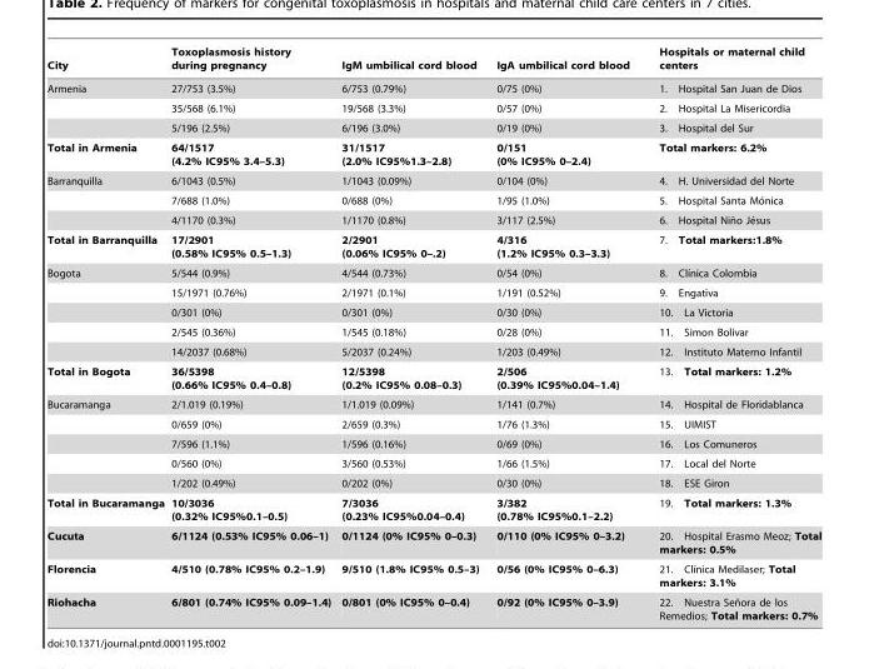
<table><thead><tr><td>City</td><td>Toxoplasmosis history during pregnancy</td><td>IgM umbilical cord blood</td><td>IgA umbilical cord blood</td><td>Hospitals or maternal child centers</td></tr></thead><tbody><tr><td rowspan="3">Armenia</td><td>27/753 (3.5%)</td><td>6/753 (0.79%)</td><td>0/75 (0%)</td><td>1. Hospital San Juan de Dios</td></tr><tr><td>35/568 (6.1%)</td><td>19/568 (3.3%)</td><td>0/57 (0%)</td><td>2. Hospital La Misericordia</td></tr><tr><td>5/196 (2.5%)</td><td>6/196 (3.0%)</td><td>0/19 (0%)</td><td>3. Hospital del Sur</td></tr><tr><td>Total in Armenia</td><td>64/1517 (4.2% IC95% 3.4–5.3)</td><td>31/1517 (2.0% IC95%1.3–2.8)</td><td>0/151 (0% IC95% 0–2.4)</td><td>Total markers: 6.2%</td></tr><tr><td rowspan="3">Barranquilla</td><td>6/1043 (0.5%)</td><td>1/1043 (0.09%)</td><td>0/104 (0%)</td><td>4. H. Universidad del Norte</td></tr><tr><td>7/688 (1.0%)</td><td>0/688 (0%)</td><td>1/95 (1.0%)</td><td>5. Hospital Santa Mo´nica</td></tr><tr><td>4/1170 (0.3%)</td><td>1/1170 (0.8%)</td><td>3/117 (2.5%)</td><td>6. Hospital Nin˜o Je´sus</td></tr><tr><td>Total in Barranquilla</td><td>17/2901 (0.58% IC95% 0.5–1.3)</td><td>2/2901 (0.06% IC95% 0–.2)</td><td>4/316 (1.2% IC95% 0.3–3.3)</td><td>7. Total markers:1.8%</td></tr><tr><td rowspan="5">Bogota</td><td>5/544 (0.9%)</td><td>4/544 (0.73%)</td><td>0/54 (0%)</td><td>8. Clı´nica Colombia</td></tr><tr><td>15/1971 (0.76%)</td><td>2/1971 (0.1%)</td><td>1/191 (0.52%)</td><td>9. Engativa</td></tr><tr><td>0/301 (0%)</td><td>0/301 (0%)</td><td>0/30 (0%)</td><td>10. La Victoria</td></tr><tr><td>2/545 (0.36%)</td><td>1/545 (0.18%)</td><td>0/28 (0%)</td><td>11. Simon Bolivar</td></tr><tr><td>14/2037 (0.68%)</td><td>5/2037 (0.24%)</td><td>1/203 (0.49%)</td><td>12. Instituto Materno Infantil</td></tr><tr><td>Total in Bogota</td><td>36/5398 (0.66% IC95% 0.4–0.8)</td><td>12/5398 (0.2% IC95% 0.08–0.3)</td><td>2/506 (0.39% IC95%0.04–1.4)</td><td>13. Total markers: 1.2%</td></tr><tr><td rowspan="5">Bucaramanga</td><td>2/1.019 (0.19%)</td><td>1/1.019 (0.09%)</td><td>1/141 (0.7%)</td><td>14. Hospital de Floridablanca</td></tr><tr><td>0/659 (0%)</td><td>2/659 (0.3%)</td><td>1/76 (1.3%)</td><td>15. UIMIST</td></tr><tr><td>7/596 (1.1%)</td><td>1/596 (0.16%)</td><td>0/69 (0%)</td><td>16. Los Comuneros</td></tr><tr><td>0/560 (0%)</td><td>3/560 (0.53%)</td><td>1/66 (1.5%)</td><td>17. Local del Norte</td></tr><tr><td>1/202 (0.49%)</td><td>0/202 (0%)</td><td>0/30 (0%)</td><td>18. ESE Giron</td></tr><tr><td>Total in Bucaramanga</td><td>10/3036 (0.32% IC95%0.1–0.5)</td><td>7/3036 (0.23% IC95%0.04–0.4)</td><td>3/382 (0.78% IC95%0.1–2.2)</td><td>19. Total markers: 1.3%</td></tr><tr><td>Cucuta</td><td>6/1124 (0.53% IC95% 0.06–1)</td><td>0/1124 (0% IC95% 0–0.3)</td><td>0/110 (0% IC95% 0–3.2)</td><td>20. Hospital Erasmo Meoz; Total markers: 0.5%</td></tr><tr><td>Florencia</td><td>4/510 (0.78% IC95% 0.2–1.9)</td><td>9/510 (1.8% IC95% 0.5–3)</td><td>0/56 (0% IC95% 0–6.3)</td><td>21. Clı´nica Medilaser; Total markers: 3.1%</td></tr><tr><td>Riohacha</td><td>6/801 (0.74% IC95% 0.09–1.4)</td><td>0/801 (0% IC95% 0–0.4)</td><td>0/92 (0% IC95% 0–3.9)</td><td>22. Nuestra Sen˜ora de los Remedios; Total markers: 0.7%</td></tr></tbody></table>